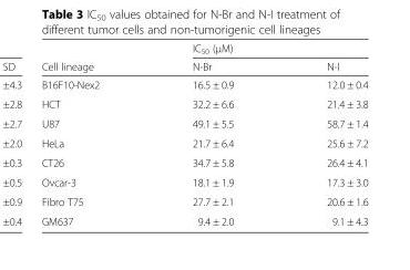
<table><thead><tr><td rowspan="2">Cell lineage</td><td colspan="2">IC<sub>50</sub> (μM)</td></tr><tr><td>N-Br</td><td>N-I</td></tr></thead><tbody><tr><td>B16F10-Nex2</td><td>16.5 ± 0.9</td><td>12.0 ± 0.4</td></tr><tr><td>HCT</td><td>32.2 ± 6.6</td><td>21.4 ± 3.8</td></tr><tr><td>U87</td><td>49.1 ± 5.5</td><td>58.7 ± 1.4</td></tr><tr><td>HeLa</td><td>21.7 ± 6.4</td><td>25.6 ± 7.2</td></tr><tr><td>CT26</td><td>34.7 ± 5.8</td><td>26.4 ± 4.1</td></tr><tr><td>Ovcar-3</td><td>18.1 ± 1.9</td><td>17.3 ± 3.0</td></tr><tr><td>Fibro T75</td><td>27.7 ± 2.1</td><td>20.6 ± 1.6</td></tr><tr><td>GM637</td><td>9.4 ± 2.0</td><td>9.1 ± 4.3</td></tr></tbody></table>